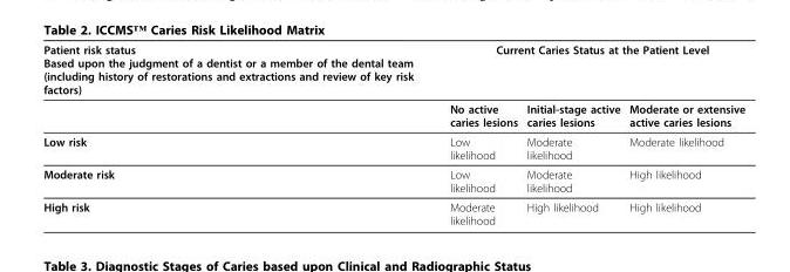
<table><thead><tr><td rowspan="2">Patient risk status Based upon the judgment of a dentist or a member of the dental team (including history of restorations and extractions and review of key risk factors)</td><td colspan="3">Current Caries Status at the Patient Level</td></tr><tr><td>No active caries lesions</td><td>Initial-stage active caries lesions</td><td>Moderate or extensive active caries lesions</td></tr></thead><tbody><tr><td>Low risk</td><td>Low likelihood</td><td>Moderate likelihood</td><td>Moderate likelihood</td></tr><tr><td>Moderate risk</td><td>Low likelihood</td><td>Moderate likelihood</td><td>High likelihood</td></tr><tr><td>High risk</td><td>Moderate likelihood</td><td>High likelihood</td><td>High likelihood</td></tr></tbody></table>